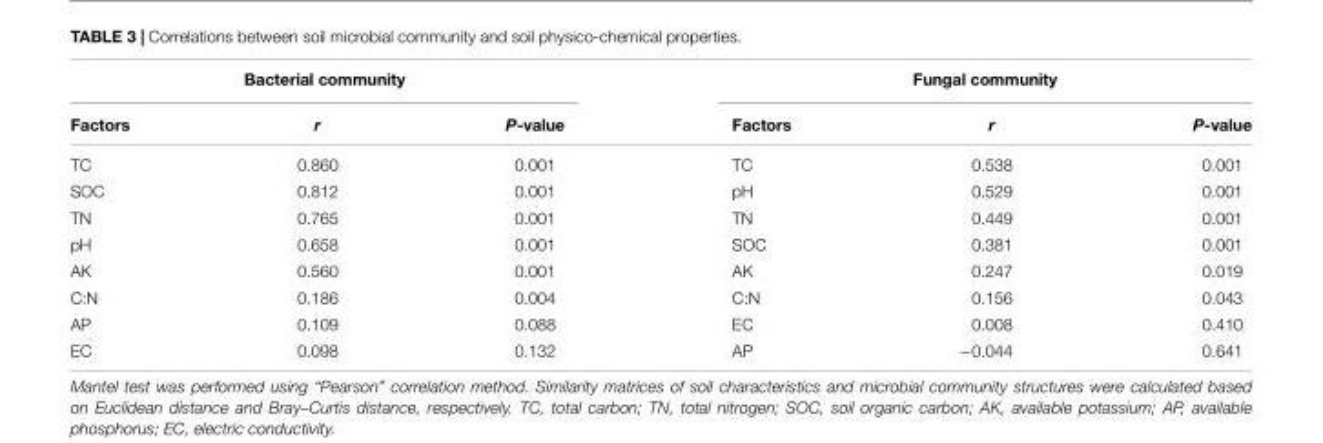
<table><thead><tr><td colspan="3">Bacterial community</td><td colspan="3">Fungal community</td></tr><tr><td>Factors</td><td>r</td><td>P-value</td><td>Factors</td><td>r</td><td>P-value</td></tr></thead><tbody><tr><td>TC</td><td>0.860</td><td>0.001</td><td>TC</td><td>0.538</td><td>0.001</td></tr><tr><td>SOC</td><td>0.812</td><td>0.001</td><td>pH</td><td>0.529</td><td>0.001</td></tr><tr><td>TN</td><td>0.765</td><td>0.001</td><td>TN</td><td>0.449</td><td>0.001</td></tr><tr><td>pH</td><td>0.658</td><td>0.001</td><td>SOC</td><td>0.381</td><td>0.001</td></tr><tr><td>AK</td><td>0.560</td><td>0.001</td><td>AK</td><td>0.247</td><td>0.019</td></tr><tr><td>C:N</td><td>0.186</td><td>0.004</td><td>C:N</td><td>0.156</td><td>0.043</td></tr><tr><td>AP</td><td>0.109</td><td>0.088</td><td>EC</td><td>0.008</td><td>0.410</td></tr><tr><td>EC</td><td>0.098</td><td>0.132</td><td>AP</td><td>−0.044</td><td>0.641</td></tr></tbody></table>